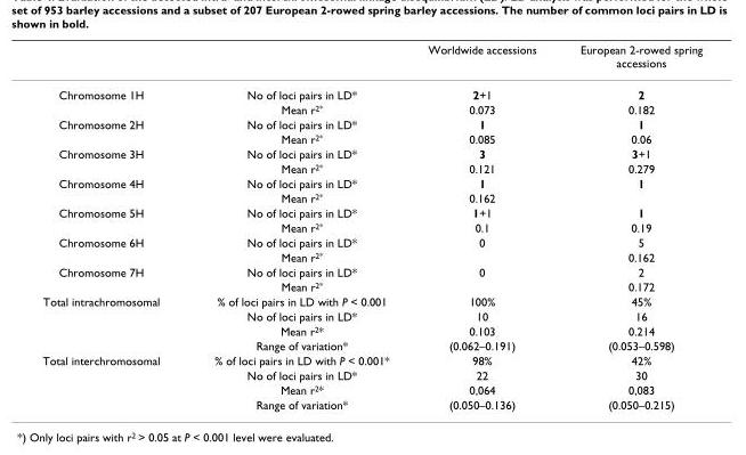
<table><thead><tr><td></td><td></td><td>Worldwide accessions</td><td>European 2-rowed spring accessions</td></tr></thead><tbody><tr><td rowspan="2">Chromosome 1H</td><td>No of loci pairs in LD*</td><td>2+1</td><td>2</td></tr><tr><td>Mean r<sup>2*</sup></td><td>0.073</td><td>0.182</td></tr><tr><td rowspan="2">Chromosome 2H</td><td>No of loci pairs in LD*</td><td>1</td><td>1</td></tr><tr><td>Mean r<sup>2*</sup></td><td>0.085</td><td>0.06</td></tr><tr><td rowspan="2">Chromosome 3H</td><td>No of loci pairs in LD*</td><td>3</td><td>3+1</td></tr><tr><td>Mean r<sup>2*</sup></td><td>0.121</td><td>0.279</td></tr><tr><td rowspan="2">Chromosome 4H</td><td>No of loci pairs in LD*</td><td>1</td><td>1</td></tr><tr><td>Mean r<sup>2*</sup></td><td>0.162</td><td></td></tr><tr><td rowspan="2">Chromosome 5H</td><td>No of loci pairs in LD*</td><td>1+1</td><td>1</td></tr><tr><td>Mean r<sup>2*</sup></td><td>0.1</td><td>0.19</td></tr><tr><td rowspan="2">Chromosome 6H</td><td>No of loci pairs in LD*</td><td>0</td><td>5</td></tr><tr><td>Mean r<sup>2*</sup></td><td></td><td>0.162</td></tr><tr><td rowspan="2">Chromosome 7H</td><td>No of loci pairs in LD*</td><td>0</td><td>2</td></tr><tr><td>Mean r<sup>2*</sup></td><td></td><td>0.172</td></tr><tr><td rowspan="4">Total intrachromosomal</td><td>% of loci pairs in LD with P &lt; 0.001</td><td>100%</td><td>45%</td></tr><tr><td>No of loci pairs in LD*</td><td>10</td><td>16</td></tr><tr><td>Mean r<sup>2</sup>*</td><td>0.103</td><td>0.214</td></tr><tr><td>Range of variation*</td><td>(0.062–0.191)</td><td>(0.053–0.598)</td></tr><tr><td rowspan="4">Total interchromosomal</td><td>% of loci pairs in LD with P &lt; 0.001*</td><td>98%</td><td>42%</td></tr><tr><td>No of loci pairs in LD*</td><td>22</td><td>30</td></tr><tr><td>Mean r<sup>2</sup>*</td><td>0,064</td><td>0,083</td></tr><tr><td>Range of variation*</td><td>(0.050–0.136)</td><td>(0.050–0.215)</td></tr></tbody></table>